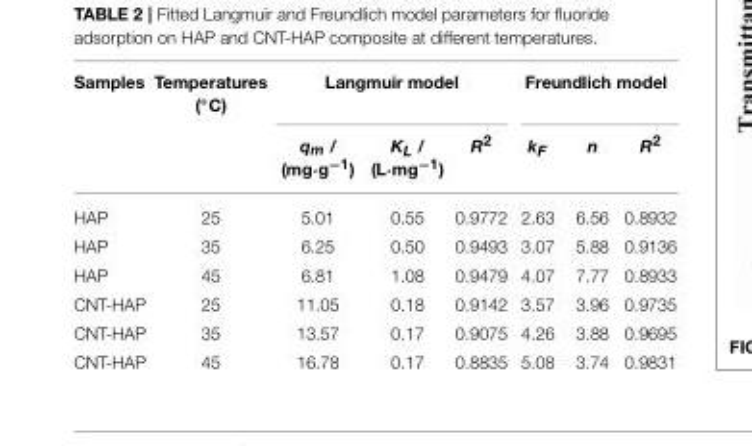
<table><thead><tr><td rowspan="2">Samples</td><td rowspan="2">Temperatures (◦C)</td><td colspan="3">Langmuir model</td><td colspan="3">Freundlich model</td></tr><tr><td>qm / (mg·g−1)</td><td>KL / (L·mg−1)</td><td>R<sup>2</sup></td><td>kF</td><td>n</td><td>R<sup>2</sup></td></tr></thead><tbody><tr><td>HAP</td><td>25</td><td>5.01</td><td>0.55</td><td>0.9772</td><td>2.63</td><td>6.56</td><td>0.8932</td></tr><tr><td>HAP</td><td>35</td><td>6.25</td><td>0.50</td><td>0.9493</td><td>3.07</td><td>5.88</td><td>0.9136</td></tr><tr><td>HAP</td><td>45</td><td>6.81</td><td>1.08</td><td>0.9479</td><td>4.07</td><td>7.77</td><td>0.8933</td></tr><tr><td>CNT-HAP</td><td>25</td><td>11.05</td><td>0.18</td><td>0.9142</td><td>3.57</td><td>3.96</td><td>0.9735</td></tr><tr><td>CNT-HAP</td><td>35</td><td>13.57</td><td>0.17</td><td>0.9075</td><td>4.26</td><td>3.88</td><td>0.9695</td></tr><tr><td>CNT-HAP</td><td>45</td><td>16.78</td><td>0.17</td><td>0.8835</td><td>5.08</td><td>3.74</td><td>0.9831</td></tr></tbody></table>